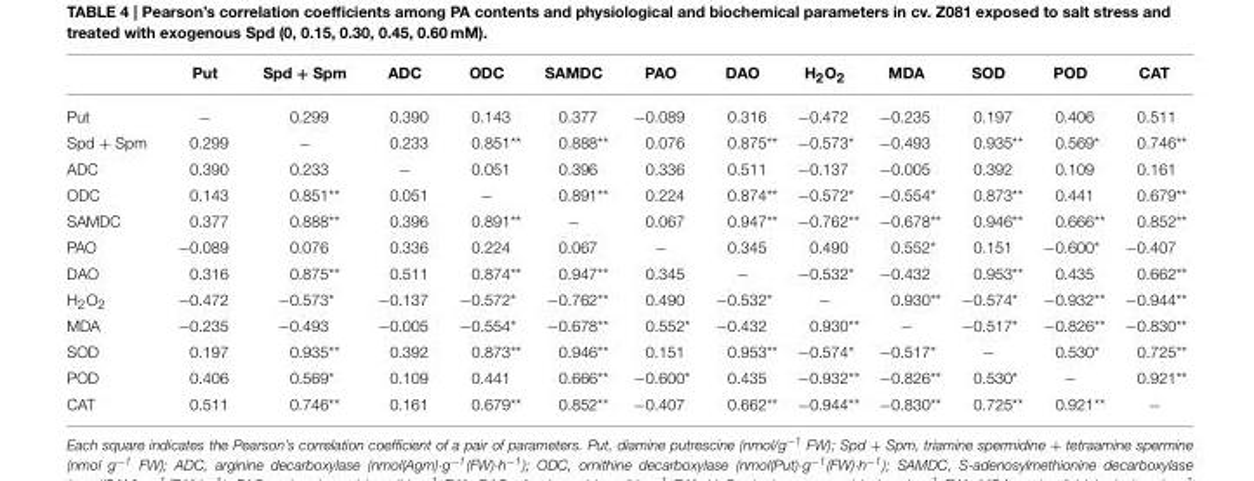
<table><thead><tr><td></td><td>Put</td><td>Spd + Spm</td><td>ADC</td><td>ODC</td><td>SAMDC</td><td>PAO</td><td>DAO</td><td>H<sub>2</sub>O<sub>2</sub></td><td>MDA</td><td>SOD</td><td>POD</td><td>CAT</td></tr></thead><tbody><tr><td>Put</td><td>−</td><td>0.299</td><td>0.390</td><td>0.143</td><td>0.377</td><td>−0.089</td><td>0.316</td><td>−0.472</td><td>−0.235</td><td>0.197</td><td>0.406</td><td>0.511</td></tr><tr><td>Spd + Spm</td><td>0.299</td><td>−</td><td>0.233</td><td>0.851**</td><td>0.888**</td><td>0.076</td><td>0.875**</td><td>−0.573*</td><td>−0.493</td><td>0.935**</td><td>0.569*</td><td>0.746**</td></tr><tr><td>ADC</td><td>0.390</td><td>0.233</td><td>−</td><td>0.051</td><td>0.396</td><td>0.336</td><td>0.511</td><td>−0.137</td><td>−0.005</td><td>0.392</td><td>0.109</td><td>0.161</td></tr><tr><td>ODC</td><td>0.143</td><td>0.851**</td><td>0.051</td><td>−</td><td>0.891**</td><td>0.224</td><td>0.874**</td><td>−0.572*</td><td>−0.554*</td><td>0.873**</td><td>0.441</td><td>0.679**</td></tr><tr><td>SAMDC</td><td>0.377</td><td>0.888**</td><td>0.396</td><td>0.891**</td><td>−</td><td>0.067</td><td>0.947**</td><td>−0.762**</td><td>−0.678**</td><td>0.946**</td><td>0.666**</td><td>0.852**</td></tr><tr><td>PAO</td><td>−0.089</td><td>0.076</td><td>0.336</td><td>0.224</td><td>0.067</td><td>−</td><td>0.345</td><td>0.490</td><td>0.552*</td><td>0.151</td><td>−0.600*</td><td>−0.407</td></tr><tr><td>DAO</td><td>0.316</td><td>0.875**</td><td>0.511</td><td>0.874**</td><td>0.947**</td><td>0.345</td><td>−</td><td>−0.532*</td><td>−0.432</td><td>0.953**</td><td>0.435</td><td>0.662**</td></tr><tr><td>H<sub>2</sub>O<sub>2</sub></td><td>−0.472</td><td>−0.573*</td><td>−0.137</td><td>−0.572*</td><td>−0.762**</td><td>0.490</td><td>−0.532*</td><td>−</td><td>0.930**</td><td>−0.574*</td><td>−0.932**</td><td>−0.944**</td></tr><tr><td>MDA</td><td>−0.235</td><td>−0.493</td><td>−0.005</td><td>−0.554*</td><td>−0.678**</td><td>0.552*</td><td>−0.432</td><td>0.930**</td><td>−</td><td>−0.517*</td><td>−0.826**</td><td>−0.830**</td></tr><tr><td>SOD</td><td>0.197</td><td>0.935**</td><td>0.392</td><td>0.873**</td><td>0.946**</td><td>0.151</td><td>0.953**</td><td>−0.574*</td><td>−0.517*</td><td>−</td><td>0.530*</td><td>0.725**</td></tr><tr><td>POD</td><td>0.406</td><td>0.569*</td><td>0.109</td><td>0.441</td><td>0.666**</td><td>−0.600*</td><td>0.435</td><td>−0.932**</td><td>−0.826**</td><td>0.530*</td><td>−</td><td>0.921**</td></tr><tr><td>CAT</td><td>0.511</td><td>0.746**</td><td>0.161</td><td>0.679**</td><td>0.852**</td><td>−0.407</td><td>0.662**</td><td>−0.944**</td><td>−0.830**</td><td>0.725**</td><td>0.921**</td><td>−</td></tr></tbody></table>